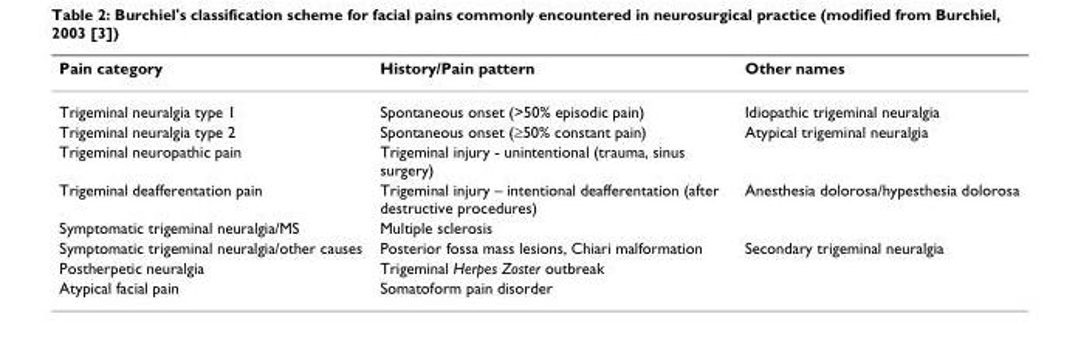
<table><thead><tr><td>Pain category</td><td>History/Pain pattern</td><td>Other names</td></tr></thead><tbody><tr><td>Trigeminal neuralgia type 1</td><td>Spontaneous onset (&gt;50% episodic pain)</td><td>Idiopathic trigeminal neuralgia</td></tr><tr><td>Trigeminal neuralgia type 2</td><td>Spontaneous onset (≥50% constant pain)</td><td>Atypical trigeminal neuralgia</td></tr><tr><td>Trigeminal neuropathic pain</td><td>Trigeminal injury - unintentional (trauma, sinus surgery)</td><td></td></tr><tr><td>Trigeminal deafferentation pain</td><td>Trigeminal injury – intentional deafferentation (after destructive procedures)</td><td>Anesthesia dolorosa/hypesthesia dolorosa</td></tr><tr><td>Symptomatic trigeminal neuralgia/MS</td><td>Multiple sclerosis</td><td></td></tr><tr><td>Symptomatic trigeminal neuralgia/other causes</td><td>Posterior fossa mass lesions, Chiari malformation</td><td>Secondary trigeminal neuralgia</td></tr><tr><td>Postherpetic neuralgia</td><td>Trigeminal Herpes Zoster outbreak</td><td></td></tr><tr><td>Atypical facial pain</td><td>Somatoform pain disorder</td><td></td></tr></tbody></table>